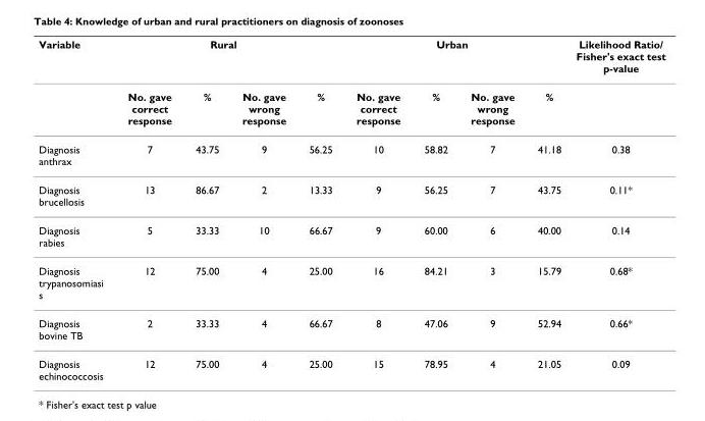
<table><thead><tr><td rowspan="2">Variable</td><td colspan="4">Rural</td><td colspan="4">Urban</td><td rowspan="2">Likelihood Ratio/ Fisher&#x27;s exact test p-value</td></tr><tr><td>No. gave correct response</td><td>%</td><td>No. gave wrong response</td><td>%</td><td>No. gave correct response</td><td>%</td><td>No. gave wrong response</td><td>%</td></tr></thead><tbody><tr><td>Diagnosis anthrax</td><td>7</td><td>43.75</td><td>9</td><td>56.25</td><td>10</td><td>58.82</td><td>7</td><td>41.18</td><td>0.38</td></tr><tr><td>Diagnosis brucellosis</td><td>13</td><td>86.67</td><td>2</td><td>13.33</td><td>9</td><td>56.25</td><td>7</td><td>43.75</td><td>0.11*</td></tr><tr><td>Diagnosis rabies</td><td>5</td><td>33.33</td><td>10</td><td>66.67</td><td>9</td><td>60.00</td><td>6</td><td>40.00</td><td>0.14</td></tr><tr><td>Diagnosis trypanosomiasi s</td><td>12</td><td>75.00</td><td>4</td><td>25.00</td><td>16</td><td>84.21</td><td>3</td><td>15.79</td><td>0.68*</td></tr><tr><td>Diagnosis bovine TB</td><td>2</td><td>33.33</td><td>4</td><td>66.67</td><td>8</td><td>47.06</td><td>9</td><td>52.94</td><td>0.66*</td></tr><tr><td>Diagnosis echinococcosis</td><td>12</td><td>75.00</td><td>4</td><td>25.00</td><td>15</td><td>78.95</td><td>4</td><td>21.05</td><td>0.09</td></tr></tbody></table>